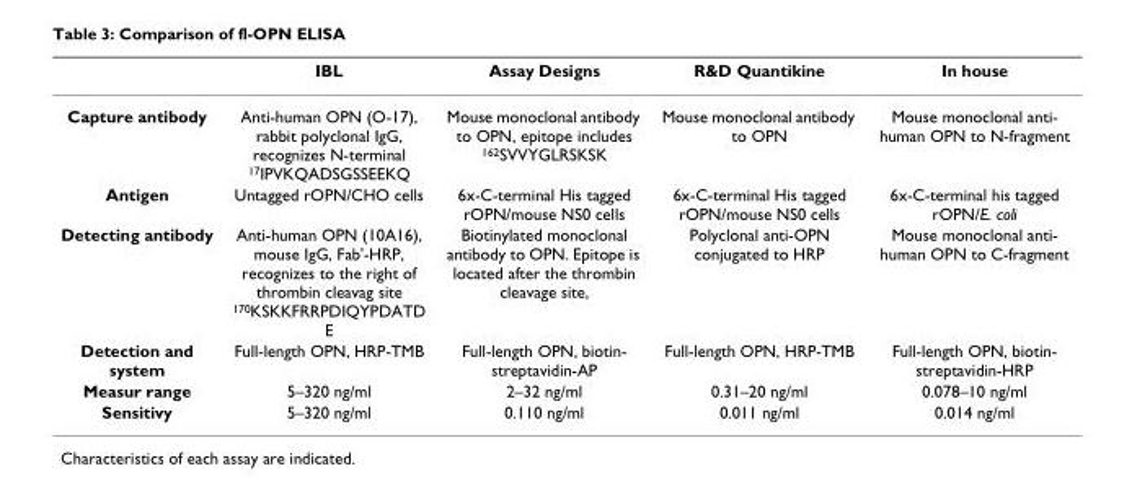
<table><thead><tr><td></td><td>IBL</td><td>Assay Designs</td><td>R&amp;D Quantikine</td><td>In house</td></tr></thead><tbody><tr><td>Capture antibody</td><td>Anti-human OPN (O-17), rabbit polyclonal IgG, recognizes N-terminal <sup>17</sup>IPVKQADSGSSEEKQ</td><td>Mouse monoclonal antibody to OPN, epitope includes <sup>162</sup>SVVYGLRSKSK</td><td>Mouse monoclonal antibody to OPN</td><td>Mouse monoclonal anti- human OPN to N-fragment</td></tr><tr><td>Antigen</td><td>Untagged rOPN/CHO cells</td><td>6x-C-terminal His tagged rOPN/mouse NS0 cells</td><td>6x-C-terminal His tagged rOPN/mouse NS0 cells</td><td>6x-C-terminal his tagged rOPN/E. coli</td></tr><tr><td>Detecting antibody</td><td>Anti-human OPN (10A16), mouse IgG, Fab&#x27;-HRP, recognizes to the right of thrombin cleavag site <sup>170</sup>KSKKFRRPDIQYPDATD E</td><td>Biotinylated monoclonal antibody to OPN. Epitope is located after the thrombin cleavage site,</td><td>Polyclonal anti-OPN conjugated to HRP</td><td>Mouse monoclonal anti- human OPN to C-fragment</td></tr><tr><td>Detection and system</td><td>Full-length OPN, HRP-TMB</td><td>Full-length OPN, biotin- streptavidin-AP</td><td>Full-length OPN, HRP-TMB</td><td>Full-length OPN, biotin- streptavidin-HRP</td></tr><tr><td>Measur range</td><td>5–320 ng/ml</td><td>2–32 ng/ml</td><td>0.31–20 ng/ml</td><td>0.078–10 ng/ml</td></tr><tr><td>Sensitivy</td><td>5–320 ng/ml</td><td>0.110 ng/ml</td><td>0.011 ng/ml</td><td>0.014 ng/ml</td></tr></tbody></table>